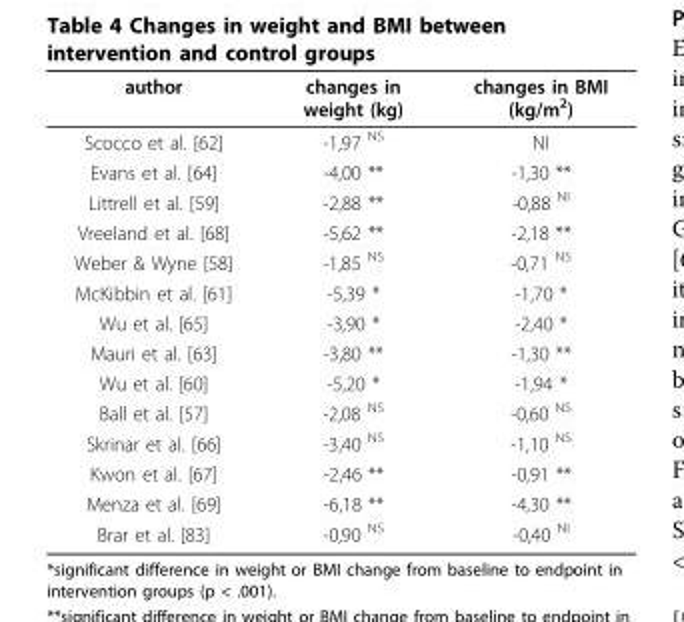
<table><thead><tr><td>author</td><td>changes in weight (kg)</td><td>changes in BMI (kg/m<sup>2</sup>)</td></tr></thead><tbody><tr><td>Scocco et al. [62]</td><td>-1,97 <sup>NS</sup></td><td>NI</td></tr><tr><td>Evans et al. [64]</td><td>-4,00 **</td><td>-1,30 **</td></tr><tr><td>Littrell et al. [59]</td><td>-2,88 **</td><td>-0,88 <sup>NI</sup></td></tr><tr><td>Vreeland et al. [68]</td><td>-5,62 **</td><td>-2,18 **</td></tr><tr><td>Weber &amp; Wyne [58]</td><td>-1,85 <sup>NS</sup></td><td>-0,71 <sup>NS</sup></td></tr><tr><td>McKibbin et al. [61]</td><td>-5,39 *</td><td>-1,70 *</td></tr><tr><td>Wu et al. [65]</td><td>-3,90 *</td><td>-2,40 *</td></tr><tr><td>Mauri et al. [63]</td><td>-3,80 **</td><td>-1,30 **</td></tr><tr><td>Wu et al. [60]</td><td>-5,20 *</td><td>-1,94 *</td></tr><tr><td>Ball et al. [57]</td><td>-2,08 <sup>NS</sup></td><td>-0,60 <sup>NS</sup></td></tr><tr><td>Skrinar et al. [66]</td><td>-3,40 <sup>NS</sup></td><td>-1,10 <sup>NS</sup></td></tr><tr><td>Kwon et al. [67]</td><td>-2,46 **</td><td>-0,91 **</td></tr><tr><td>Menza et al. [69]</td><td>-6,18 **</td><td>-4,30 **</td></tr><tr><td>Brar et al. [83]</td><td>-0,90 <sup>NS</sup></td><td>-0,40 <sup>NI</sup></td></tr></tbody></table>